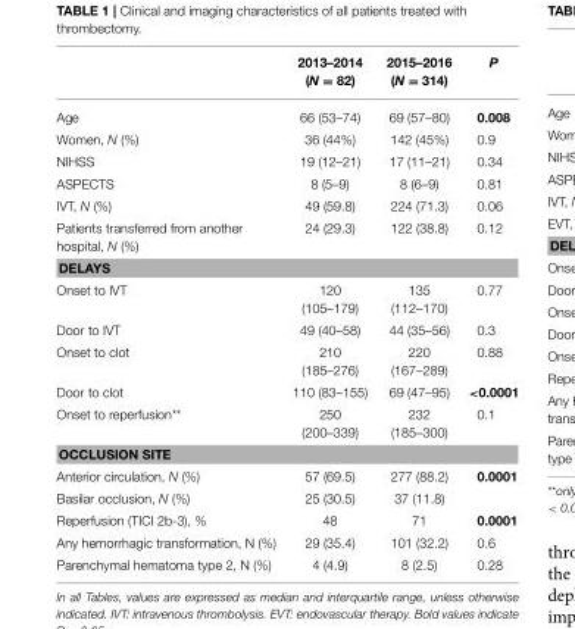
<table><thead><tr><td></td><td>2013–2014 (N = 82)</td><td>2015–2016 (N = 314)</td><td>P</td></tr></thead><tbody><tr><td>Age</td><td>66 (53–74)</td><td>69 (57–80)</td><td>0.008</td></tr><tr><td>Women, N (%)</td><td>36 (44%)</td><td>142 (45%)</td><td>0.9</td></tr><tr><td>NIHSS</td><td>19 (12–21)</td><td>17 (11–21)</td><td>0.34</td></tr><tr><td>ASPECTS</td><td>8 (5–9)</td><td>8 (6–9)</td><td>0.81</td></tr><tr><td>IVT, N (%)</td><td>49 (59.8)</td><td>224 (71.3)</td><td>0.06</td></tr><tr><td>Patients transferred from another hospital, N (%)</td><td>24 (29.3)</td><td>122 (38.8)</td><td>0.12</td></tr><tr><td colspan="4">DELAYS</td></tr><tr><td>Onset to IVT</td><td>120 (105–179)</td><td>135 (112–170)</td><td>0.77</td></tr><tr><td>Door to IVT</td><td>49 (40–58)</td><td>44 (35–56)</td><td>0.3</td></tr><tr><td>Onset to clot</td><td>210 (185–276)</td><td>220 (167–289)</td><td>0.88</td></tr><tr><td>Door to clot</td><td>110 (83–155)</td><td>69 (47–95)</td><td>&lt;0.0001</td></tr><tr><td>Onset to reperfusion**</td><td>250 (200–339)</td><td>232 (185–300)</td><td>0.1</td></tr><tr><td colspan="4">OCCLUSION SITE</td></tr><tr><td>Anterior circulation, N (%)</td><td>57 (69.5)</td><td>277 (88.2)</td><td>0.0001</td></tr><tr><td>Basilar occlusion, N (%)</td><td>25 (30.5)</td><td>37 (11.8)</td><td></td></tr><tr><td>Reperfusion (TICI 2b-3), %</td><td>48</td><td>71</td><td>0.0001</td></tr><tr><td>Any hemorrhagic transformation, N (%)</td><td>29 (35.4)</td><td>101 (32.2)</td><td>0.6</td></tr><tr><td>Parenchymal hematoma type 2, N (%)</td><td>4 (4.9)</td><td>8 (2.5)</td><td>0.28</td></tr></tbody></table>